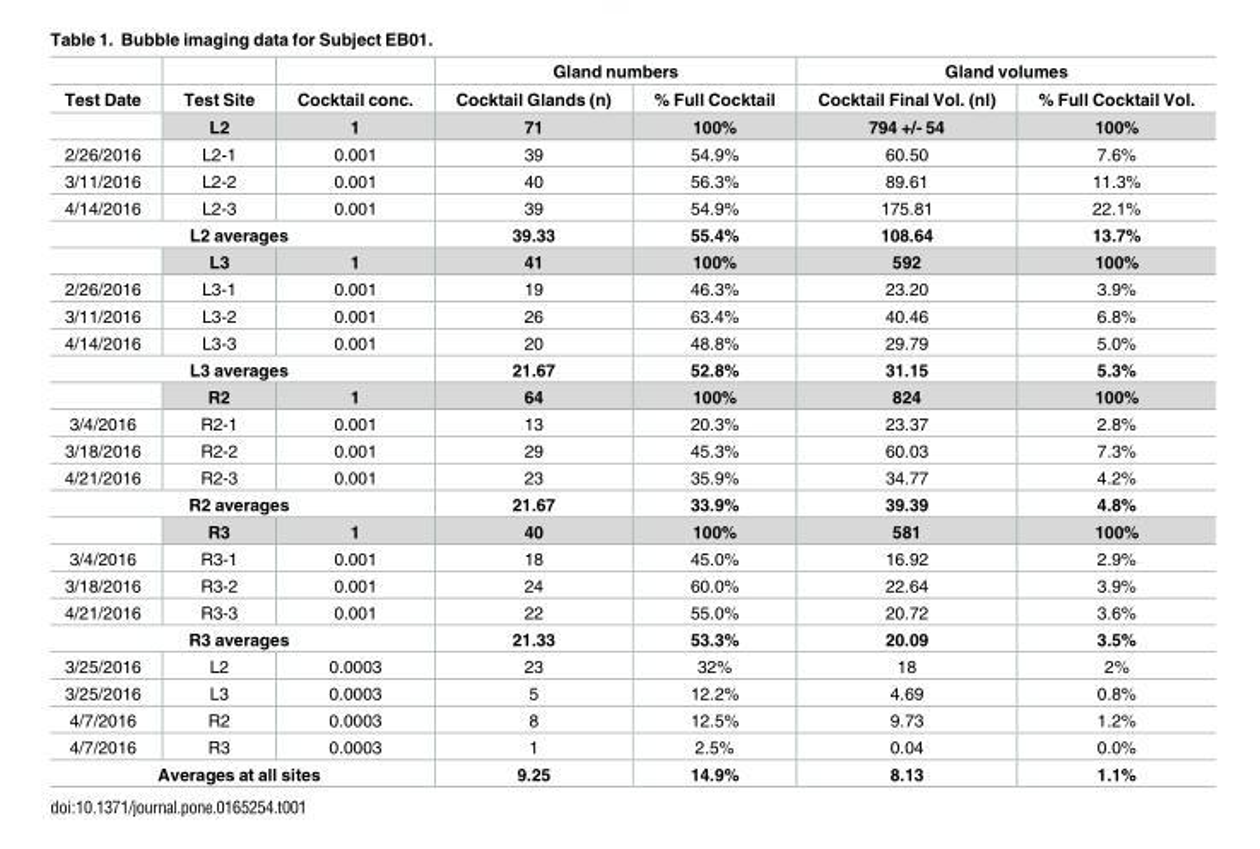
<table><thead><tr><td rowspan="2">Test Date</td><td rowspan="2">Test Site</td><td rowspan="2">Cocktail conc.</td><td colspan="2">Gland numbers</td><td colspan="2">Gland volumes</td></tr><tr><td>Cocktail Glands (n)</td><td>% Full Cocktail</td><td>Cocktail Final Vol. (nl)</td><td>% Full Cocktail Vol.</td></tr></thead><tbody><tr><td></td><td>L2</td><td>1</td><td>71</td><td>100%</td><td>794 +/- 54</td><td>100%</td></tr><tr><td>2/26/2016</td><td>L2-1</td><td>0.001</td><td>39</td><td>54.9%</td><td>60.50</td><td>7.6%</td></tr><tr><td>3/11/2016</td><td>L2-2</td><td>0.001</td><td>40</td><td>56.3%</td><td>89.61</td><td>11.3%</td></tr><tr><td>4/14/2016</td><td>L2-3</td><td>0.001</td><td>39</td><td>54.9%</td><td>175.81</td><td>22.1%</td></tr><tr><td colspan="3">L2 averages</td><td>39.33</td><td>55.4%</td><td>108.64</td><td>13.7%</td></tr><tr><td></td><td>L3</td><td>1</td><td>41</td><td>100%</td><td>592</td><td>100%</td></tr><tr><td>2/26/2016</td><td>L3-1</td><td>0.001</td><td>19</td><td>46.3%</td><td>23.20</td><td>3.9%</td></tr><tr><td>3/11/2016</td><td>L3-2</td><td>0.001</td><td>26</td><td>63.4%</td><td>40.46</td><td>6.8%</td></tr><tr><td>4/14/2016</td><td>L3-3</td><td>0.001</td><td>20</td><td>48.8%</td><td>29.79</td><td>5.0%</td></tr><tr><td colspan="3">L3 averages</td><td>21.67</td><td>52.8%</td><td>31.15</td><td>5.3%</td></tr><tr><td></td><td>R2</td><td>1</td><td>64</td><td>100%</td><td>824</td><td>100%</td></tr><tr><td>3/4/2016</td><td>R2-1</td><td>0.001</td><td>13</td><td>20.3%</td><td>23.37</td><td>2.8%</td></tr><tr><td>3/18/2016</td><td>R2-2</td><td>0.001</td><td>29</td><td>45.3%</td><td>60.03</td><td>7.3%</td></tr><tr><td>4/21/2016</td><td>R2-3</td><td>0.001</td><td>23</td><td>35.9%</td><td>34.77</td><td>4.2%</td></tr><tr><td colspan="3">R2 averages</td><td>21.67</td><td>33.9%</td><td>39.39</td><td>4.8%</td></tr><tr><td></td><td>R3</td><td>1</td><td>40</td><td>100%</td><td>581</td><td>100%</td></tr><tr><td>3/4/2016</td><td>R3-1</td><td>0.001</td><td>18</td><td>45.0%</td><td>16.92</td><td>2.9%</td></tr><tr><td>3/18/2016</td><td>R3-2</td><td>0.001</td><td>24</td><td>60.0%</td><td>22.64</td><td>3.9%</td></tr><tr><td>4/21/2016</td><td>R3-3</td><td>0.001</td><td>22</td><td>55.0%</td><td>20.72</td><td>3.6%</td></tr><tr><td colspan="3">R3 averages</td><td>21.33</td><td>53.3%</td><td>20.09</td><td>3.5%</td></tr><tr><td>3/25/2016</td><td>L2</td><td>0.0003</td><td>23</td><td>32%</td><td>18</td><td>2%</td></tr><tr><td>3/25/2016</td><td>L3</td><td>0.0003</td><td>5</td><td>12.2%</td><td>4.69</td><td>0.8%</td></tr><tr><td>4/7/2016</td><td>R2</td><td>0.0003</td><td>8</td><td>12.5%</td><td>9.73</td><td>1.2%</td></tr><tr><td>4/7/2016</td><td>R3</td><td>0.0003</td><td>1</td><td>2.5%</td><td>0.04</td><td>0.0%</td></tr><tr><td colspan="3">Averages at all sites</td><td>9.25</td><td>14.9%</td><td>8.13</td><td>1.1%</td></tr></tbody></table>